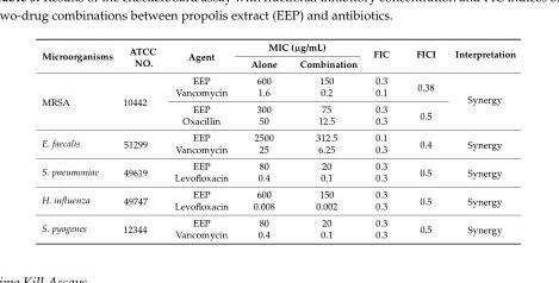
<table><thead><tr><td rowspan="2">Microorganisms</td><td rowspan="2">ATCC NO.</td><td rowspan="2">Agent</td><td colspan="2">MIC (µg/mL)</td><td rowspan="2">FIC</td><td rowspan="2">FICI</td><td rowspan="2">Interpretation</td></tr><tr><td>Alone</td><td>Combination</td></tr></thead><tbody><tr><td rowspan="4">MRSA</td><td rowspan="4">10442</td><td>EEP</td><td>600</td><td>150</td><td>0.3</td><td rowspan="2">0.38</td><td rowspan="4">Synergy</td></tr><tr><td>Vancomycin</td><td>1.6</td><td>0.2</td><td>0.1</td></tr><tr><td>EEP</td><td>300</td><td>75</td><td>0.3</td><td rowspan="2">0.5</td></tr><tr><td>Oxacillin</td><td>50</td><td>12.5</td><td>0.3</td></tr><tr><td rowspan="2">E. faecalis</td><td rowspan="2">51299</td><td>EEP</td><td>2500</td><td>312.5</td><td>0.1</td><td rowspan="2">0.4</td><td rowspan="2">Synergy</td></tr><tr><td>Vancomycin</td><td>25</td><td>6.25</td><td>0.3</td></tr><tr><td rowspan="2">S. pneumoniae</td><td rowspan="2">49619</td><td>EEP</td><td>80</td><td>20</td><td>0.3</td><td rowspan="2">0.5</td><td rowspan="2">Synergy</td></tr><tr><td>Levofloxacin</td><td>0.4</td><td>0.1</td><td>0.3</td></tr><tr><td rowspan="2">H. influenza</td><td rowspan="2">49747</td><td>EEP</td><td>600</td><td>150</td><td>0.3</td><td rowspan="2">0.5</td><td rowspan="2">Synergy</td></tr><tr><td>Levofloxacin</td><td>0.008</td><td>0.002</td><td>0.3</td></tr><tr><td rowspan="2">S. pyogenes</td><td rowspan="2">12344</td><td>EEP</td><td>80</td><td>20</td><td>0.3</td><td rowspan="2">0.5</td><td rowspan="2">Synergy</td></tr><tr><td>Vancomycin</td><td>0.4</td><td>0.1</td><td>0.3</td></tr></tbody></table>